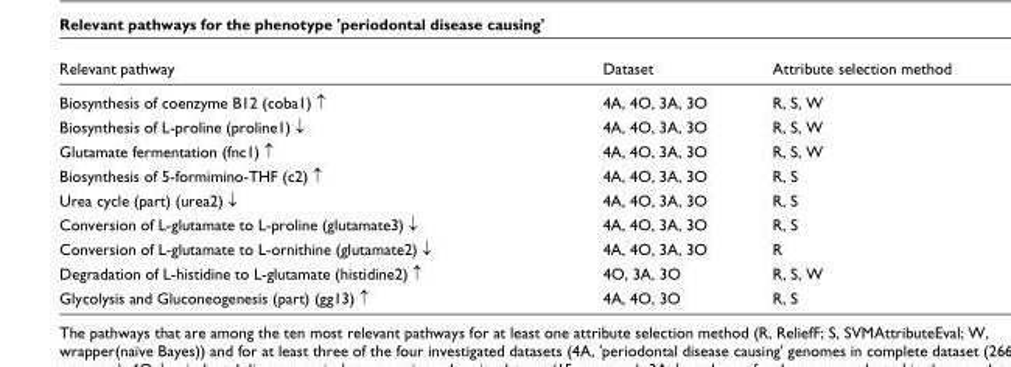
<table><thead><tr><td>Relevant pathway</td><td>Dataset</td><td>Attribute selection method</td></tr></thead><tbody><tr><td>Biosynthesis of coenzyme B12 (coba1) ↑</td><td>4A, 4O, 3A, 3O</td><td>R, S, W</td></tr><tr><td>Biosynthesis of L-proline (proline1) ↓</td><td>4A, 4O, 3A, 3O</td><td>R, S, W</td></tr><tr><td>Glutamate fermentation (fnc1) ↑</td><td>4A, 4O, 3A, 3O</td><td>R, S, W</td></tr><tr><td>Biosynthesis of 5-formimino-THF (c2) ↑</td><td>4A, 4O, 3A, 3O</td><td>R, S</td></tr><tr><td>Urea cycle (part) (urea2) ↓</td><td>4A, 4O, 3A, 3O</td><td>R, S</td></tr><tr><td>Conversion of L-glutamate to L-proline (glutamate3) ↓</td><td>4A, 4O, 3A, 3O</td><td>R, S</td></tr><tr><td>Conversion of L-glutamate to L-ornithine (glutamate2) ↓</td><td>4A, 4O, 3A, 3O</td><td>R</td></tr><tr><td>Degradation of L-histidine to L-glutamate (histidine2) ↑</td><td>4O, 3A, 3O</td><td>R, S, W</td></tr><tr><td>Glycolysis and Gluconeogenesis (part) (gg13) ↑</td><td>4A, 4O, 3O</td><td>R, S</td></tr></tbody></table>